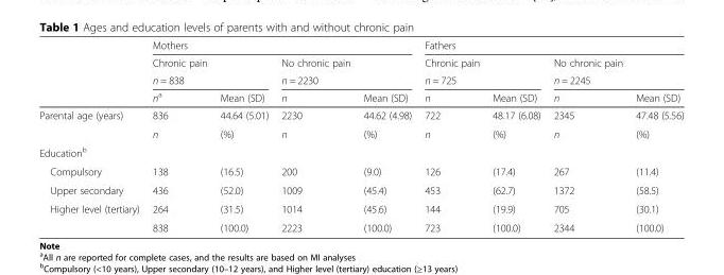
<table><thead><tr><td rowspan="4"></td><td colspan="4">Mothers</td><td colspan="4">Fathers</td></tr><tr><td>Chronic pain</td><td></td><td>No chronic pain</td><td></td><td>Chronic pain</td><td></td><td>No chronic pain</td><td></td></tr><tr><td colspan="2">n = 838</td><td colspan="2">n = 2230</td><td colspan="2">n = 725</td><td colspan="2">n = 2245</td></tr><tr><td>n<sup>a</sup></td><td>Mean (SD)</td><td>n</td><td>Mean (SD)</td><td>n</td><td>Mean (SD)</td><td>n</td><td>Mean (SD)</td></tr></thead><tbody><tr><td rowspan="2">Parental age (years)</td><td>836</td><td>44.64 (5.01)</td><td>2230</td><td>44.62 (4.98)</td><td>722</td><td>48.17 (6.08)</td><td>2345</td><td>47.48 (5.56)</td></tr><tr><td>n</td><td>(%)</td><td>n</td><td>(%)</td><td>n</td><td>(%)</td><td>n</td><td>(%)</td></tr><tr><td colspan="9">Education<sup>b</sup></td></tr><tr><td>Compulsory</td><td>138</td><td>(16.5)</td><td>200</td><td>(9.0)</td><td>126</td><td>(17.4)</td><td>267</td><td>(11.4)</td></tr><tr><td>Upper secondary</td><td>436</td><td>(52.0)</td><td>1009</td><td>(45.4)</td><td>453</td><td>(62.7)</td><td>1372</td><td>(58.5)</td></tr><tr><td rowspan="2">Higher level (tertiary)</td><td>264</td><td>(31.5)</td><td>1014</td><td>(45.6)</td><td>144</td><td>(19.9)</td><td>705</td><td>(30.1)</td></tr><tr><td>838</td><td>(100.0)</td><td>2223</td><td>(100.0)</td><td>723</td><td>(100.0)</td><td>2344</td><td>(100.0)</td></tr></tbody></table>